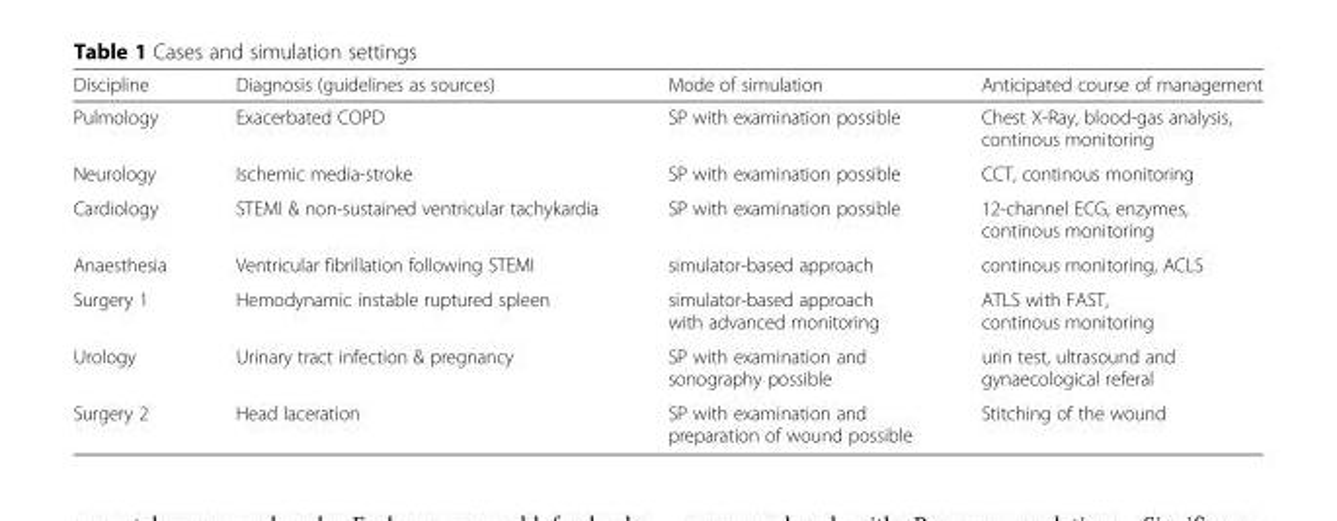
<table><thead><tr><td>Discipline</td><td>Diagnosis (guidelines as sources)</td><td>Mode of simulation</td><td>Anticipated course of management</td></tr></thead><tbody><tr><td>Pulmology</td><td>Exacerbated COPD</td><td>SP with examination possible</td><td>Chest X-Ray, blood-gas analysis, continous monitoring</td></tr><tr><td>Neurology</td><td>Ischemic media-stroke</td><td>SP with examination possible</td><td>CCT, continous monitoring</td></tr><tr><td>Cardiology</td><td>STEMI &amp; non-sustained ventricular tachykardia</td><td>SP with examination possible</td><td>12-channel ECG, enzymes, continous monitoring</td></tr><tr><td>Anaesthesia</td><td>Ventricular fibrillation following STEMI</td><td>simulator-based approach</td><td>continous monitoring, ACLS</td></tr><tr><td>Surgery 1</td><td>Hemodynamic instable ruptured spleen</td><td>simulator-based approach with advanced monitoring</td><td>ATLS with FAST, continous monitoring</td></tr><tr><td>Urology</td><td>Urinary tract infection &amp; pregnancy</td><td>SP with examination and sonography possible</td><td>urin test, ultrasound and gynaecological referal</td></tr><tr><td>Surgery 2</td><td>Head laceration</td><td>SP with examination and preparation of wound possible</td><td>Stitching of the wound</td></tr></tbody></table>